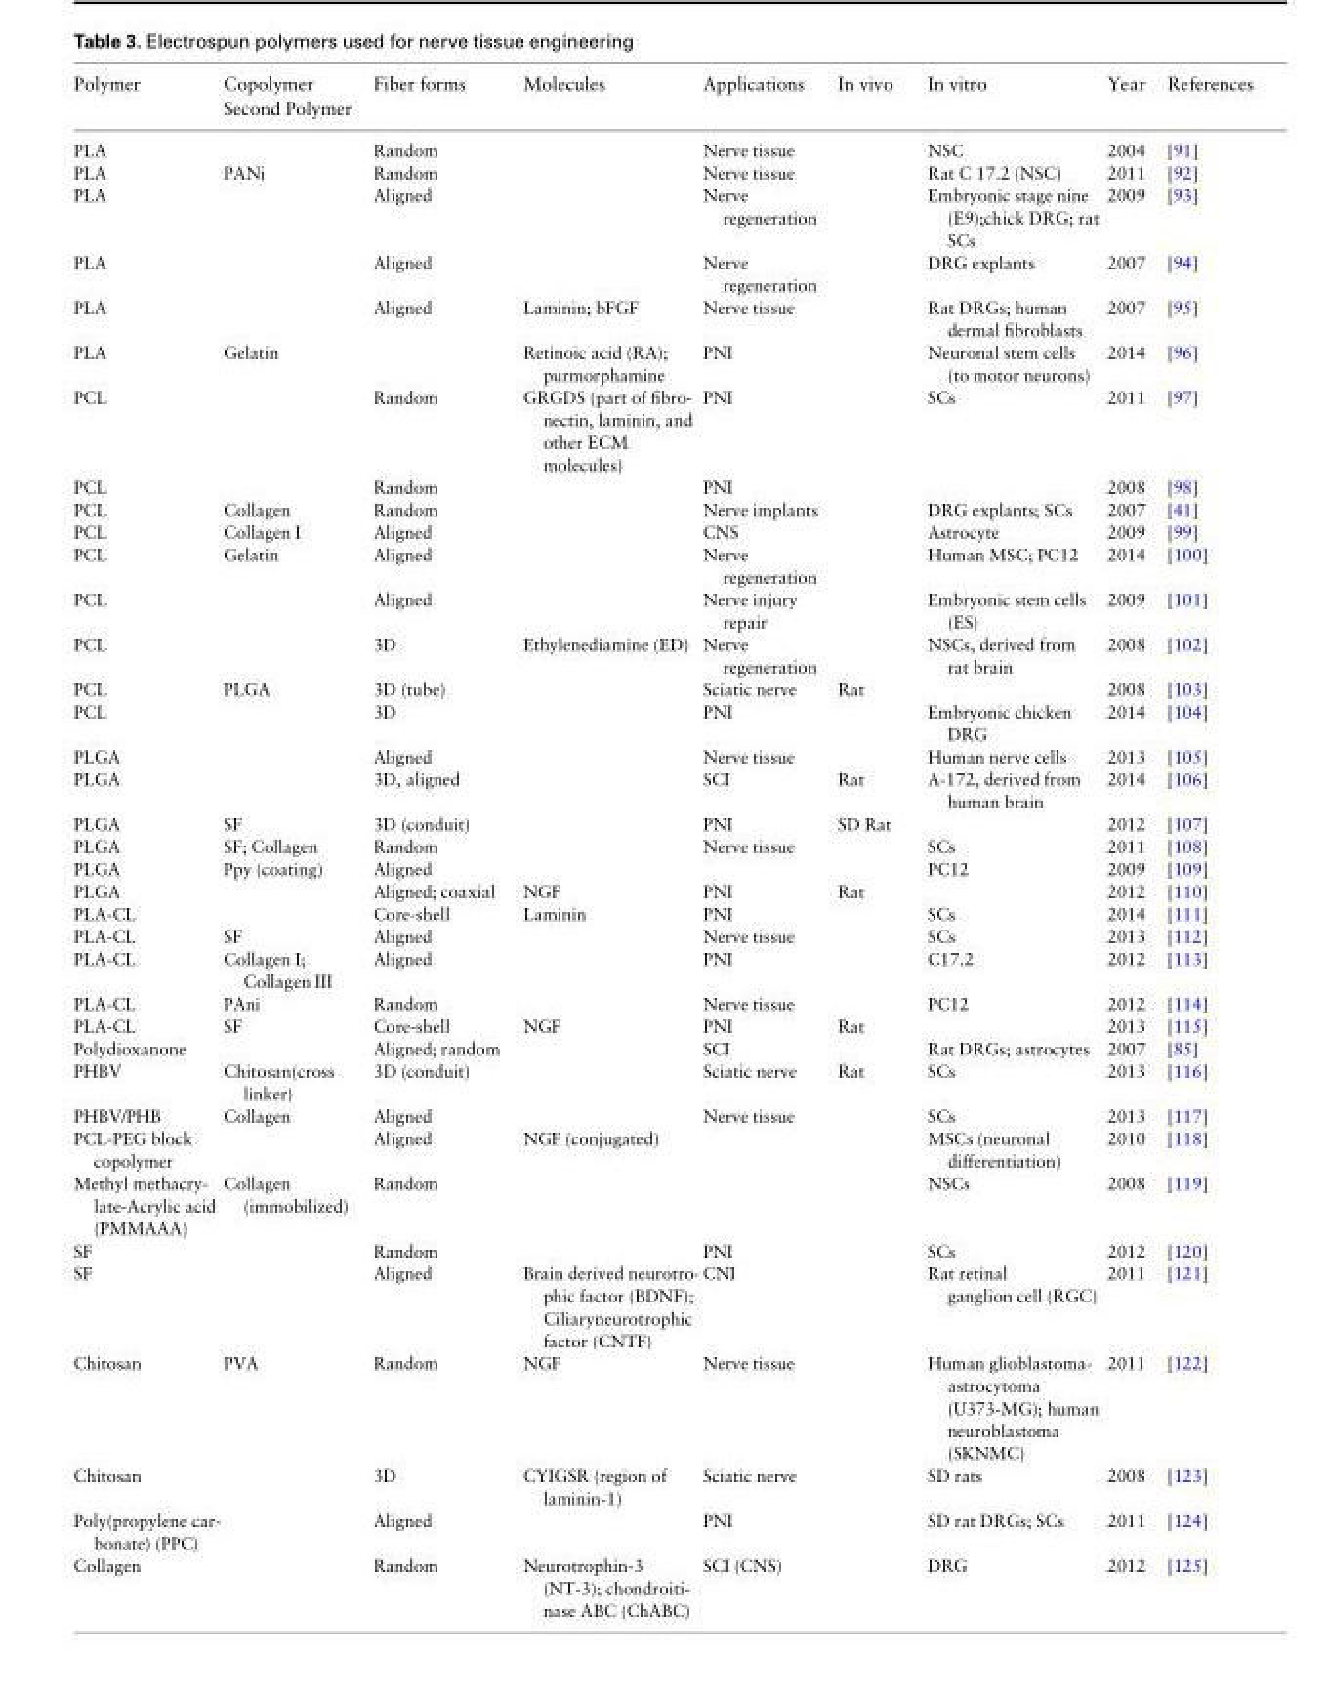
<table><thead><tr><td>Polymer</td><td>Copolymer Second Polymer</td><td>Fiber forms</td><td>Molecules</td><td>Applications</td><td>In vivo</td><td>In vitro</td><td>Year</td><td>References</td></tr></thead><tbody><tr><td>PLA</td><td></td><td>Random</td><td></td><td>Nerve tissue</td><td></td><td>NSC</td><td>2004</td><td>[91]</td></tr><tr><td>PLA</td><td>PANi</td><td>Random</td><td></td><td>Nerve tissue</td><td></td><td>Rat C 17.2 (NSC)</td><td>2011</td><td>[92]</td></tr><tr><td>PLA</td><td></td><td>Aligned</td><td></td><td>Nerve regeneration</td><td></td><td>Embryonic stage nine (E9);chick DRG; rat SCs</td><td>2009</td><td>[93]</td></tr><tr><td>PLA</td><td></td><td>Aligned</td><td></td><td>Nerve regeneration</td><td></td><td>DRG explants</td><td>2007</td><td>[94]</td></tr><tr><td>PLA</td><td></td><td>Aligned</td><td>Laminin; bFGF</td><td>Nerve tissue</td><td></td><td>Rat DRGs; human dermal fibroblasts</td><td>2007</td><td>[95]</td></tr><tr><td>PLA</td><td>Gelatin</td><td></td><td>Retinoic acid (RA); purmorphamine</td><td>PNI</td><td></td><td>Neuronal stem cells (to motor neurons)</td><td>2014</td><td>[96]</td></tr><tr><td>PCL</td><td></td><td>Random</td><td>GRGDS (part of fibro- nectin, laminin, and other ECM molecules)</td><td>PNI</td><td></td><td>SCs</td><td>2011</td><td>[97]</td></tr><tr><td>PCL</td><td></td><td>Random</td><td></td><td>PNI</td><td></td><td></td><td>2008</td><td>[98]</td></tr><tr><td>PCL</td><td>Collagen</td><td>Random</td><td></td><td>Nerve implants</td><td></td><td>DRG explants; SCs</td><td>2007</td><td>[41]</td></tr><tr><td>PCL</td><td>Collagen I</td><td>Aligned</td><td></td><td>CNS</td><td></td><td>Astrocyte</td><td>2009</td><td>[99]</td></tr><tr><td>PCL</td><td>Gelatin</td><td>Aligned</td><td></td><td>Nerve regeneration</td><td></td><td>Human MSC; PC12</td><td>2014</td><td>[100]</td></tr><tr><td>PCL</td><td></td><td>Aligned</td><td></td><td>Nerve injury repair</td><td></td><td>Embryonic stem cells (ES)</td><td>2009</td><td>[101]</td></tr><tr><td>PCL</td><td></td><td>3D</td><td>Ethylenediamine (ED)</td><td>Nerve regeneration</td><td></td><td>NSCs, derived from rat brain</td><td>2008</td><td>[102]</td></tr><tr><td>PCL</td><td>PLGA</td><td>3D (tube)</td><td></td><td>Sciatic nerve</td><td>Rat</td><td></td><td>2008</td><td>[103]</td></tr><tr><td>PCL</td><td></td><td>3D</td><td></td><td>PNI</td><td></td><td>Embryonic chicken DRG</td><td>2014</td><td>[104]</td></tr><tr><td>PLGA</td><td></td><td>Aligned</td><td></td><td>Nerve tissue</td><td></td><td>Human nerve cells</td><td>2013</td><td>[105]</td></tr><tr><td>PLGA</td><td></td><td>3D, aligned</td><td></td><td>SCI</td><td>Rat</td><td>A-172, derived from human brain</td><td>2014</td><td>[106]</td></tr><tr><td>PLGA</td><td>SF</td><td>3D (conduit)</td><td></td><td>PNI</td><td>SD Rat</td><td></td><td>2012</td><td>[107]</td></tr><tr><td>PLGA</td><td>SF; Collagen</td><td>Random</td><td></td><td>Nerve tissue</td><td></td><td>SCs</td><td>2011</td><td>[108]</td></tr><tr><td>PLGA</td><td>Ppy (coating)</td><td>Aligned</td><td></td><td></td><td></td><td>PC12</td><td>2009</td><td>[109]</td></tr><tr><td>PLGA</td><td></td><td>Aligned; coaxial</td><td>NGF</td><td>PNI</td><td>Rat</td><td></td><td>2012</td><td>[110]</td></tr><tr><td>PLA-CL</td><td></td><td>Core-shell</td><td>Laminin</td><td>PNI</td><td></td><td>SCs</td><td>2014</td><td>[111]</td></tr><tr><td>PLA-CL</td><td>SF</td><td>Aligned</td><td></td><td>Nerve tissue</td><td></td><td>SCs</td><td>2013</td><td>[112]</td></tr><tr><td>PLA-CL</td><td>Collagen I; Collagen III</td><td>Aligned</td><td></td><td>PNI</td><td></td><td>C17.2</td><td>2012</td><td>[113]</td></tr><tr><td>PLA-CL</td><td>PAni</td><td>Random</td><td></td><td>Nerve tissue</td><td></td><td>PC12</td><td>2012</td><td>[114]</td></tr><tr><td>PLA-CL</td><td>SF</td><td>Core-shell</td><td>NGF</td><td>PNI</td><td>Rat</td><td></td><td>2013</td><td>[115]</td></tr><tr><td>Polydioxanone</td><td></td><td>Aligned; random</td><td></td><td>SCI</td><td></td><td>Rat DRGs; astrocytes</td><td>2007</td><td>[85]</td></tr><tr><td>PHBV</td><td>Chitosan(cross linker)</td><td>3D (conduit)</td><td></td><td>Sciatic nerve</td><td>Rat</td><td>SCs</td><td>2013</td><td>[116]</td></tr><tr><td>PHBV/PHB</td><td>Collagen</td><td>Aligned</td><td></td><td>Nerve tissue</td><td></td><td>SCs</td><td>2013</td><td>[117]</td></tr><tr><td>PCL-PEG block copolymer</td><td></td><td>Aligned</td><td>NGF (conjugated)</td><td></td><td></td><td>MSCs (neuronal differentiation)</td><td>2010</td><td>[118]</td></tr><tr><td>Methyl methacry- late-Acrylic acid (PMMAAA)</td><td>Collagen (immobilized)</td><td>Random</td><td></td><td></td><td></td><td>NSCs</td><td>2008</td><td>[119]</td></tr><tr><td>SF</td><td></td><td>Random</td><td></td><td>PNI</td><td></td><td>SCs</td><td>2012</td><td>[120]</td></tr><tr><td>SF</td><td></td><td>Aligned</td><td>Brain derived neurotro- phic factor (BDNF); Ciliaryneurotrophic factor (CNTF)</td><td>CNI</td><td></td><td>Rat retinal ganglion cell (RGC)</td><td>2011</td><td>[121]</td></tr><tr><td>Chitosan</td><td>PVA</td><td>Random</td><td>NGF</td><td>Nerve tissue</td><td></td><td>Human glioblastoma- astrocytoma (U373-MG); human neuroblastoma (SKNMC)</td><td>2011</td><td>[122]</td></tr><tr><td>Chitosan</td><td></td><td>3D</td><td>CYIGSR (region of laminin-1)</td><td>Sciatic nerve</td><td></td><td>SD rats</td><td>2008</td><td>[123]</td></tr><tr><td>Poly(propylene car- bonate) (PPC)</td><td></td><td>Aligned</td><td></td><td>PNI</td><td></td><td>SD rat DRGs; SCs</td><td>2011</td><td>[124]</td></tr><tr><td>Collagen</td><td></td><td>Random</td><td>Neurotrophin-3 (NT-3); chondroiti- nase ABC (ChABC)</td><td>SCI (CNS)</td><td></td><td>DRG</td><td>2012</td><td>[125]</td></tr></tbody></table>